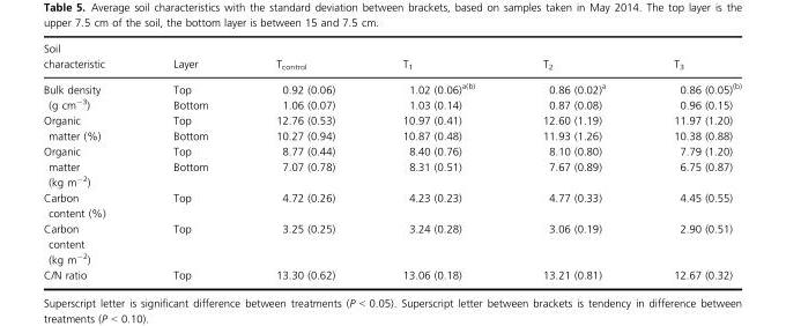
<table><thead><tr><td>Soil characteristic</td><td>Layer</td><td>T<sub>control</sub></td><td>T<sub>1</sub></td><td>T<sub>2</sub></td><td>T<sub>3</sub></td></tr></thead><tbody><tr><td rowspan="2">Bulk density (g cm<sup>−3</sup>)</td><td>Top</td><td>0.92 (0.06)</td><td>1.02 (0.06)<sup>a(b)</sup></td><td>0.86 (0.02)<sup>a</sup></td><td>0.86 (0.05)<sup>(b)</sup></td></tr><tr><td>Bottom</td><td>1.06 (0.07)</td><td>1.03 (0.14)</td><td>0.87 (0.08)</td><td>0.96 (0.15)</td></tr><tr><td rowspan="2">Organic matter (%)</td><td>Top</td><td>12.76 (0.53)</td><td>10.97 (0.41)</td><td>12.60 (1.19)</td><td>11.97 (1.20)</td></tr><tr><td>Bottom</td><td>10.27 (0.94)</td><td>10.87 (0.48)</td><td>11.93 (1.26)</td><td>10.38 (0.88)</td></tr><tr><td rowspan="2">Organic matter (kg m<sup>−2</sup>)</td><td>Top</td><td>8.77 (0.44)</td><td>8.40 (0.76)</td><td>8.10 (0.80)</td><td>7.79 (1.20)</td></tr><tr><td>Bottom</td><td>7.07 (0.78)</td><td>8.31 (0.51)</td><td>7.67 (0.89)</td><td>6.75 (0.87)</td></tr><tr><td>Carbon content (%)</td><td>Top</td><td>4.72 (0.26)</td><td>4.23 (0.23)</td><td>4.77 (0.33)</td><td>4.45 (0.55)</td></tr><tr><td>Carbon content (kg m<sup>−2</sup>)</td><td>Top</td><td>3.25 (0.25)</td><td>3.24 (0.28)</td><td>3.06 (0.19)</td><td>2.90 (0.51)</td></tr><tr><td>C/N ratio</td><td>Top</td><td>13.30 (0.62)</td><td>13.06 (0.18)</td><td>13.21 (0.81)</td><td>12.67 (0.32)</td></tr></tbody></table>